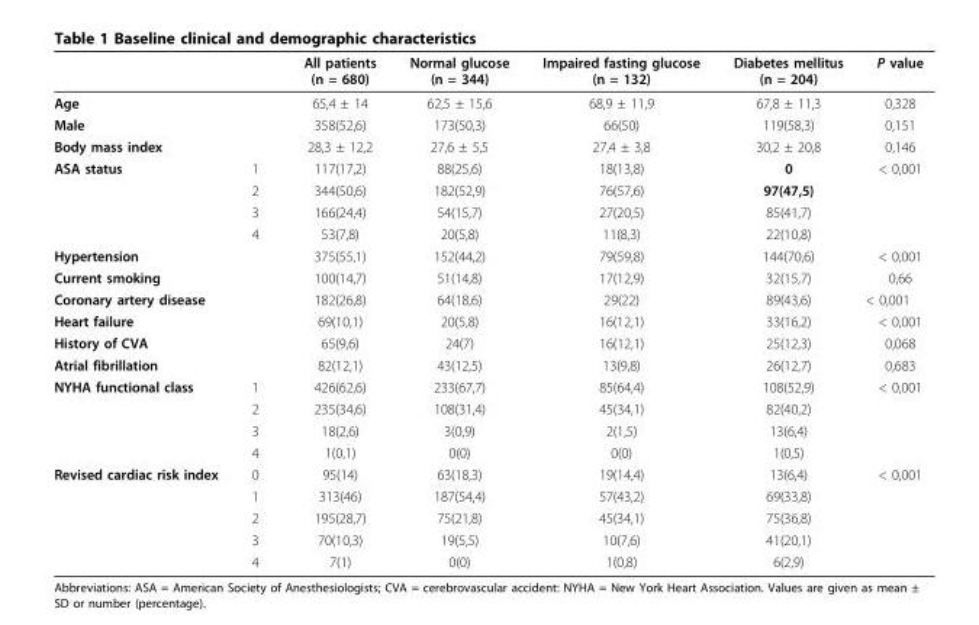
<table><thead><tr><td></td><td></td><td>All patients (n = 680)</td><td>Normal glucose (n = 344)</td><td>Impaired fasting glucose (n = 132)</td><td>Diabetes mellitus (n = 204)</td><td>P value</td></tr></thead><tbody><tr><td>Age</td><td></td><td>65,4 ± 14</td><td>62,5 ± 15,6</td><td>68,9 ± 11,9</td><td>67,8 ± 11,3</td><td>0,328</td></tr><tr><td>Male</td><td></td><td>358(52,6)</td><td>173(50,3)</td><td>66(50)</td><td>119(58,3)</td><td>0,151</td></tr><tr><td>Body mass index</td><td></td><td>28,3 ± 12,2</td><td>27,6 ± 5,5</td><td>27,4 ± 3,8</td><td>30,2 ± 20,8</td><td>0,146</td></tr><tr><td rowspan="4">ASA status</td><td>1</td><td>117(17,2)</td><td>88(25,6)</td><td>18(13,8)</td><td>0</td><td>&lt; 0,001</td></tr><tr><td>2</td><td>344(50,6)</td><td>182(52,9)</td><td>76(57,6)</td><td>97(47,5)</td><td></td></tr><tr><td>3</td><td>166(24,4)</td><td>54(15,7)</td><td>27(20,5)</td><td>85(41,7)</td><td></td></tr><tr><td>4</td><td>53(7,8)</td><td>20(5,8)</td><td>11(8,3)</td><td>22(10,8)</td><td></td></tr><tr><td>Hypertension</td><td></td><td>375(55,1)</td><td>152(44,2)</td><td>79(59,8)</td><td>144(70,6)</td><td>&lt; 0,001</td></tr><tr><td>Current smoking</td><td></td><td>100(14,7)</td><td>51(14,8)</td><td>17(12,9)</td><td>32(15,7)</td><td>0,66</td></tr><tr><td>Coronary artery disease</td><td></td><td>182(26,8)</td><td>64(18,6)</td><td>29(22)</td><td>89(43,6)</td><td>&lt; 0,001</td></tr><tr><td>Heart failure</td><td></td><td>69(10,1)</td><td>20(5,8)</td><td>16(12,1)</td><td>33(16,2)</td><td>&lt; 0,001</td></tr><tr><td>History of CVA</td><td></td><td>65(9,6)</td><td>24(7)</td><td>16(12,1)</td><td>25(12,3)</td><td>0,068</td></tr><tr><td>Atrial fibrillation</td><td></td><td>82(12,1)</td><td>43(12,5)</td><td>13(9,8)</td><td>26(12,7)</td><td>0,683</td></tr><tr><td rowspan="4">NYHA functional class</td><td>1</td><td>426(62,6)</td><td>233(67,7)</td><td>85(64,4)</td><td>108(52,9)</td><td>&lt; 0,001</td></tr><tr><td>2</td><td>235(34,6)</td><td>108(31,4)</td><td>45(34,1)</td><td>82(40,2)</td><td></td></tr><tr><td>3</td><td>18(2,6)</td><td>3(0,9)</td><td>2(1,5)</td><td>13(6,4)</td><td></td></tr><tr><td>4</td><td>1(0,1)</td><td>0(0)</td><td>0(0)</td><td>1(0,5)</td><td></td></tr><tr><td rowspan="5">Revised cardiac risk index</td><td>0</td><td>95(14)</td><td>63(18,3)</td><td>19(14,4)</td><td>13(6,4)</td><td>&lt; 0,001</td></tr><tr><td>1</td><td>313(46)</td><td>187(54,4)</td><td>57(43,2)</td><td>69(33,8)</td><td></td></tr><tr><td>2</td><td>195(28,7)</td><td>75(21,8)</td><td>45(34,1)</td><td>75(36,8)</td><td></td></tr><tr><td>3</td><td>70(10,3)</td><td>19(5,5)</td><td>10(7,6)</td><td>41(20,1)</td><td></td></tr><tr><td>4</td><td>7(1)</td><td>0(0)</td><td>1(0,8)</td><td>6(2,9)</td><td></td></tr></tbody></table>